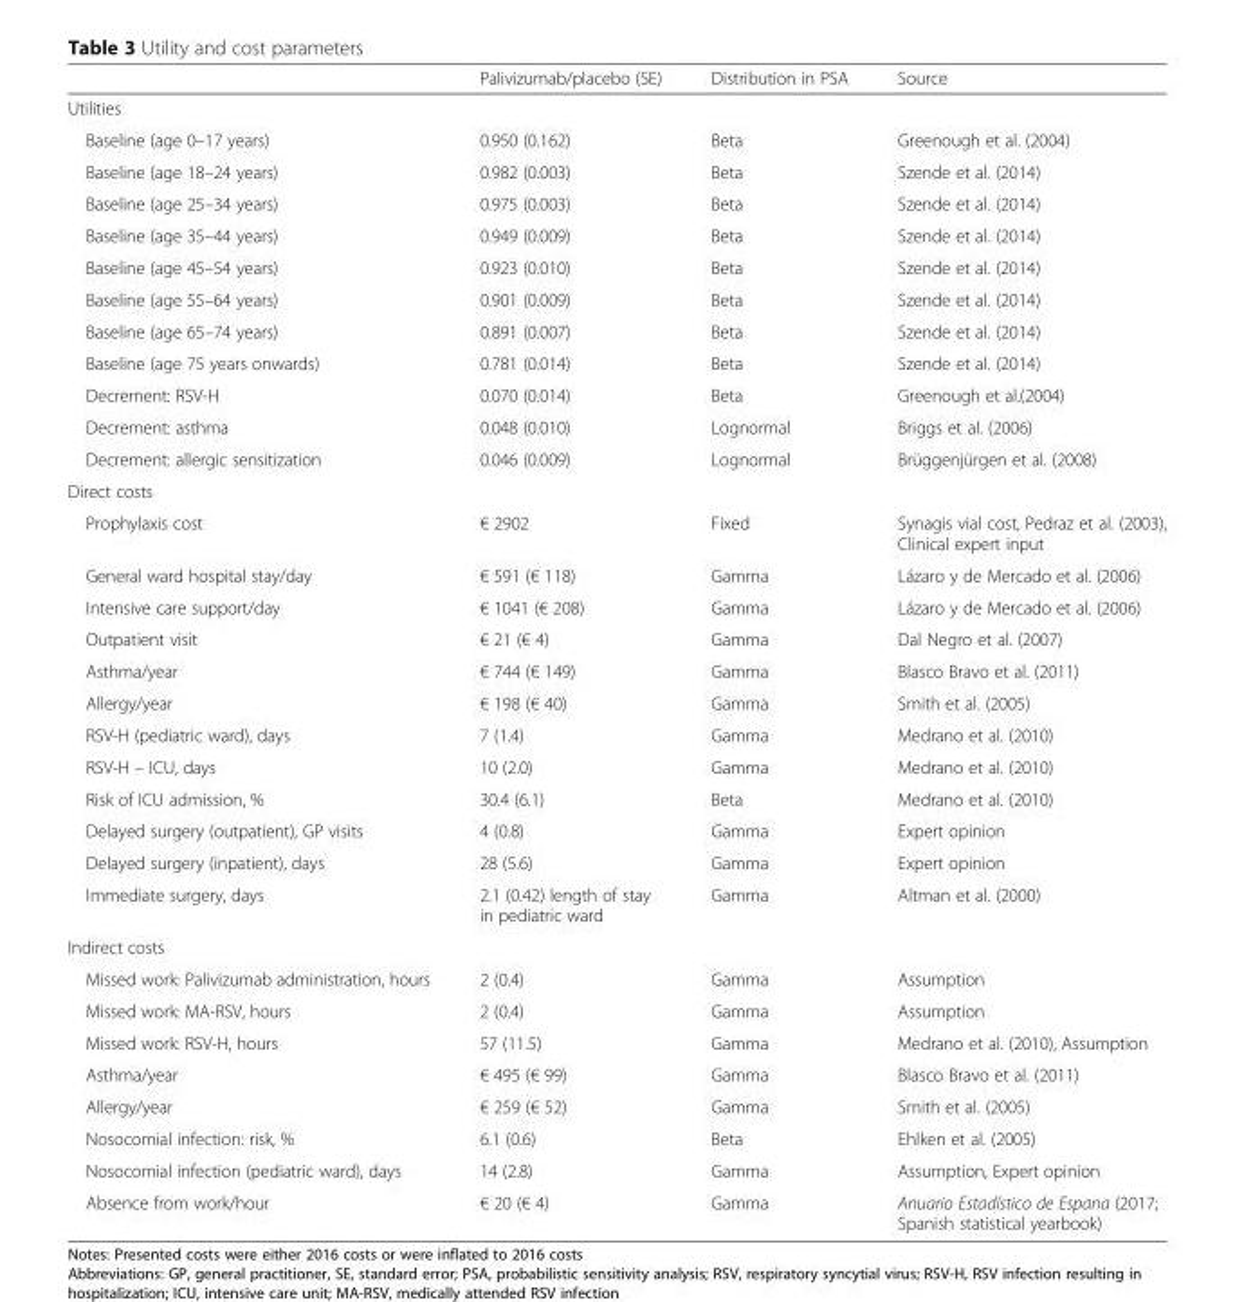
<table><thead><tr><td></td><td>Palivizumab/placebo (SE)</td><td>Distribution in PSA</td><td>Source</td></tr></thead><tbody><tr><td colspan="4">Utilities</td></tr><tr><td>Baseline (age 0–17 years)</td><td>0.950 (0.162)</td><td>Beta</td><td>Greenough et al. (2004)</td></tr><tr><td>Baseline (age 18–24 years)</td><td>0.982 (0.003)</td><td>Beta</td><td>Szende et al. (2014)</td></tr><tr><td>Baseline (age 25–34 years)</td><td>0.975 (0.003)</td><td>Beta</td><td>Szende et al. (2014)</td></tr><tr><td>Baseline (age 35–44 years)</td><td>0.949 (0.009)</td><td>Beta</td><td>Szende et al. (2014)</td></tr><tr><td>Baseline (age 45–54 years)</td><td>0.923 (0.010)</td><td>Beta</td><td>Szende et al. (2014)</td></tr><tr><td>Baseline (age 55–64 years)</td><td>0.901 (0.009)</td><td>Beta</td><td>Szende et al. (2014)</td></tr><tr><td>Baseline (age 65–74 years)</td><td>0.891 (0.007)</td><td>Beta</td><td>Szende et al. (2014)</td></tr><tr><td>Baseline (age 75 years onwards)</td><td>0.781 (0.014)</td><td>Beta</td><td>Szende et al. (2014)</td></tr><tr><td>Decrement: RSV-H</td><td>0.070 (0.014)</td><td>Beta</td><td>Greenough et al.(2004)</td></tr><tr><td>Decrement: asthma</td><td>0.048 (0.010)</td><td>Lognormal</td><td>Briggs et al. (2006)</td></tr><tr><td>Decrement: allergic sensitization</td><td>0.046 (0.009)</td><td>Lognormal</td><td>Brüggenjürgen et al. (2008)</td></tr><tr><td colspan="4">Direct costs</td></tr><tr><td>Prophylaxis cost</td><td>€ 2902</td><td>Fixed</td><td>Synagis vial cost, Pedraz et al. (2003), Clinical expert input</td></tr><tr><td>General ward hospital stay/day</td><td>€ 591 (€ 118)</td><td>Gamma</td><td>Lázaro y de Mercado et al. (2006)</td></tr><tr><td>Intensive care support/day</td><td>€ 1041 (€ 208)</td><td>Gamma</td><td>Lázaro y de Mercado et al. (2006)</td></tr><tr><td>Outpatient visit</td><td>€ 21 (€ 4)</td><td>Gamma</td><td>Dal Negro et al. (2007)</td></tr><tr><td>Asthma/year</td><td>€ 744 (€ 149)</td><td>Gamma</td><td>Blasco Bravo et al. (2011)</td></tr><tr><td>Allergy/year</td><td>€ 198 (€ 40)</td><td>Gamma</td><td>Smith et al. (2005)</td></tr><tr><td>RSV-H (pediatric ward), days</td><td>7 (1.4)</td><td>Gamma</td><td>Medrano et al. (2010)</td></tr><tr><td>RSV-H – ICU, days</td><td>10 (2.0)</td><td>Gamma</td><td>Medrano et al. (2010)</td></tr><tr><td>Risk of ICU admission, %</td><td>30.4 (6.1)</td><td>Beta</td><td>Medrano et al. (2010)</td></tr><tr><td>Delayed surgery (outpatient), GP visits</td><td>4 (0.8)</td><td>Gamma</td><td>Expert opinion</td></tr><tr><td>Delayed surgery (inpatient), days</td><td>28 (5.6)</td><td>Gamma</td><td>Expert opinion</td></tr><tr><td>Immediate surgery, days</td><td>2.1 (0.42) length of stay in pediatric ward</td><td>Gamma</td><td>Altman et al. (2000)</td></tr><tr><td colspan="4">Indirect costs</td></tr><tr><td>Missed work: Palivizumab administration, hours</td><td>2 (0.4)</td><td>Gamma</td><td>Assumption</td></tr><tr><td>Missed work: MA-RSV, hours</td><td>2 (0.4)</td><td>Gamma</td><td>Assumption</td></tr><tr><td>Missed work: RSV-H, hours</td><td>57 (11.5)</td><td>Gamma</td><td>Medrano et al. (2010), Assumption</td></tr><tr><td>Asthma/year</td><td>€ 495 (€ 99)</td><td>Gamma</td><td>Blasco Bravo et al. (2011)</td></tr><tr><td>Allergy/year</td><td>€ 259 (€ 52)</td><td>Gamma</td><td>Smith et al. (2005)</td></tr><tr><td>Nosocomial infection: risk, %</td><td>6.1 (0.6)</td><td>Beta</td><td>Ehlken et al. (2005)</td></tr><tr><td>Nosocomial infection (pediatric ward), days</td><td>14 (2.8)</td><td>Gamma</td><td>Assumption, Expert opinion</td></tr><tr><td>Absence from work/hour</td><td>€ 20 (€ 4)</td><td>Gamma</td><td>Anuario Estadístico de Espana (2017; Spanish statistical yearbook)</td></tr></tbody></table>